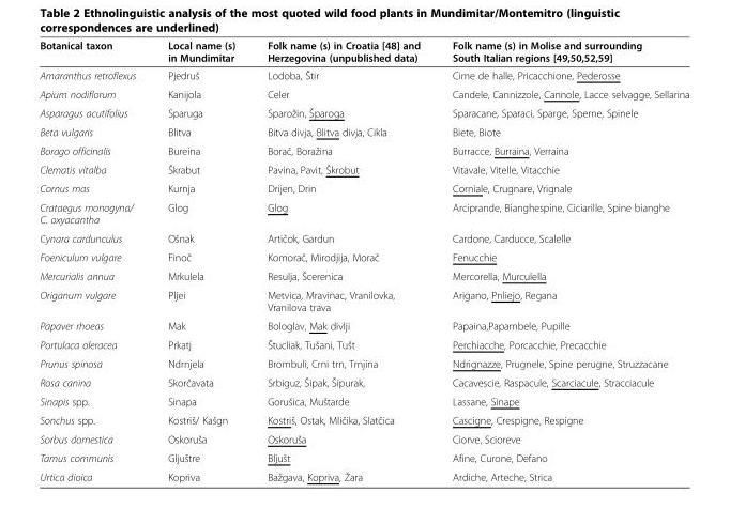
<table><thead><tr><td>Botanical taxon</td><td>Local name (s) in Mundimitar</td><td>Folk name (s) in Croatia [48] and Herzegovina (unpublished data)</td><td>Folk name (s) in Molise and surrounding South Italian regions [49,50,52,59]</td></tr></thead><tbody><tr><td>Amaranthus retroflexus</td><td>Pjedruš</td><td>Lodoba, Štir</td><td>Cime de halle, Pricacchione, Pederosse</td></tr><tr><td>Apium nodiflorum</td><td>Kanijola</td><td>Celer</td><td>Candele, Cannizzole, Cannole, Lacce selvagge, Sellarina</td></tr><tr><td>Asparagus acutifolius</td><td>Sparuga</td><td>Sparožin, Šparoga</td><td>Sparacane, Sparaci, Sparge, Sperne, Spinele</td></tr><tr><td>Beta vulgaris</td><td>Blitva</td><td>Bitva divja, Blitva divja, Cikla</td><td>Biete, Biote</td></tr><tr><td>Borago officinalis</td><td>Bureina</td><td>Borač, Boražina</td><td>Burracce, Burraina, Verraina</td></tr><tr><td>Clematis vitalba</td><td>Škrabut</td><td>Pavina, Pavit, Škrobut</td><td>Vitavale, Vitelle, Vitacchie</td></tr><tr><td>Cornus mas</td><td>Kurnja</td><td>Drijen, Drin</td><td>Corniale, Crugnare, Vrignale</td></tr><tr><td>Crataegus monogyna/ C. oxyacantha</td><td>Glog</td><td>Glog</td><td>Arciprande, Bianghespine, Ciciarille, Spine bianghe</td></tr><tr><td>Cynara cardunculus</td><td>Ošnak</td><td>Artičok, Gardun</td><td>Cardone, Carducce, Scalelle</td></tr><tr><td>Foeniculum vulgare</td><td>Finoč</td><td>Komorač, Mirodjija, Morač</td><td>Fenucchie</td></tr><tr><td>Mercurialis annua</td><td>Mrkulela</td><td>Resulja, Šcerenica</td><td>Mercorella, Murculella</td></tr><tr><td>Origanum vulgare</td><td>Pljei</td><td>Metvica, Mravinac, Vranilovka, Vranilova trava</td><td>Arigano, Pnliejo, Regana</td></tr><tr><td>Papaver rhoeas</td><td>Mak</td><td>Bologlav, Mak divlji</td><td>Papaina,Papambele, Pupille</td></tr><tr><td>Portulaca oleracea</td><td>Prkatj</td><td>Štucliak, Tušani, Tušt</td><td>Perchiacche, Porcacchie, Precacchie</td></tr><tr><td>Prunus spinosa</td><td>Ndrnjela</td><td>Brombuli, Crni trn, Trnjina</td><td>Ndrignazze, Prugnele, Spine perugne, Struzzacane</td></tr><tr><td>Rosa canina</td><td>Skorčavata</td><td>Srbiguz, Šipak, Šipurak,</td><td>Cacavescie, Raspacule, Scarciacule, Stracciacule</td></tr><tr><td>Sinapis spp.</td><td>Sinapa</td><td>Gorušica, Muštarde</td><td>Lassane, Sinape</td></tr><tr><td>Sonchus spp.</td><td>Kostriš/ Kašgn</td><td>Kostriš, Ostak, Mličika, Slatčica</td><td>Cascigne, Crespigne, Respigne</td></tr><tr><td>Sorbus domestica</td><td>Oskoruša</td><td>Oskoruša</td><td>Ciorve, Scioreve</td></tr><tr><td>Tamus communis</td><td>Gljuštre</td><td>Bljušt</td><td>Afine, Curone, Defano</td></tr><tr><td>Urtica dioica</td><td>Kopriva</td><td>Bažgava, Kopriva, Žara</td><td>Ardiche, Arteche, Strica</td></tr></tbody></table>